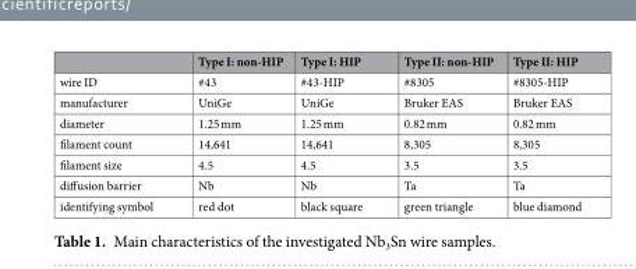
<table><thead><tr><td></td><td>Type I: non-HIP</td><td>Type I: HIP</td><td>Type II: non-HIP</td><td>Type II: HIP</td></tr></thead><tbody><tr><td>wire ID</td><td>#43</td><td>#43-HIP</td><td>#8305</td><td>#8305-HIP</td></tr><tr><td>manufacturer</td><td>UniGe</td><td>UniGe</td><td>Bruker EAS</td><td>Bruker EAS</td></tr><tr><td>diameter</td><td>1.25 mm</td><td>1.25 mm</td><td>0.82 mm</td><td>0.82 mm</td></tr><tr><td>filament count</td><td>14,641</td><td>14,641</td><td>8,305</td><td>8,305</td></tr><tr><td>filament size</td><td>4.5</td><td>4.5</td><td>3.5</td><td>3.5</td></tr><tr><td>diffusion barrier</td><td>Nb</td><td>Nb</td><td>Ta</td><td>Ta</td></tr><tr><td>identifying symbol</td><td>red dot</td><td>black square</td><td>green triangle</td><td>blue diamond</td></tr></tbody></table>